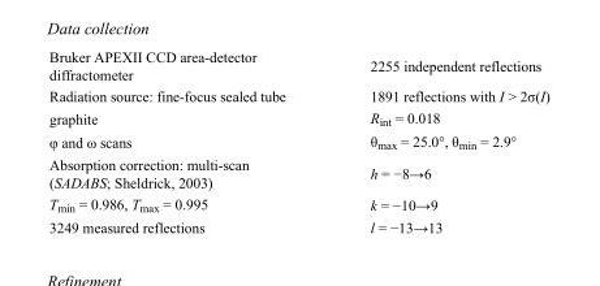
<table><tbody><tr><td>Bruker APEXII CCD area-detector diffractometer</td><td>2255 independent reflections</td></tr><tr><td>Radiation source: fine-focus sealed tube</td><td>1891 reflections with I &gt; 2σ(I)</td></tr><tr><td>graphite</td><td>R<sub>int</sub> = 0.018</td></tr><tr><td>φ and ω scans</td><td>θ<sub>max</sub> = 25.0°, θ<sub>min</sub> = 2.9°</td></tr><tr><td>Absorption correction: multi-scan (SADABS; Sheldrick, 2003)</td><td>h = −8→6</td></tr><tr><td>T<sub>min</sub> = 0.986, T<sub>max</sub> = 0.995</td><td>k = −10→9</td></tr><tr><td>3249 measured reflections</td><td>l = −13→13</td></tr></tbody></table>